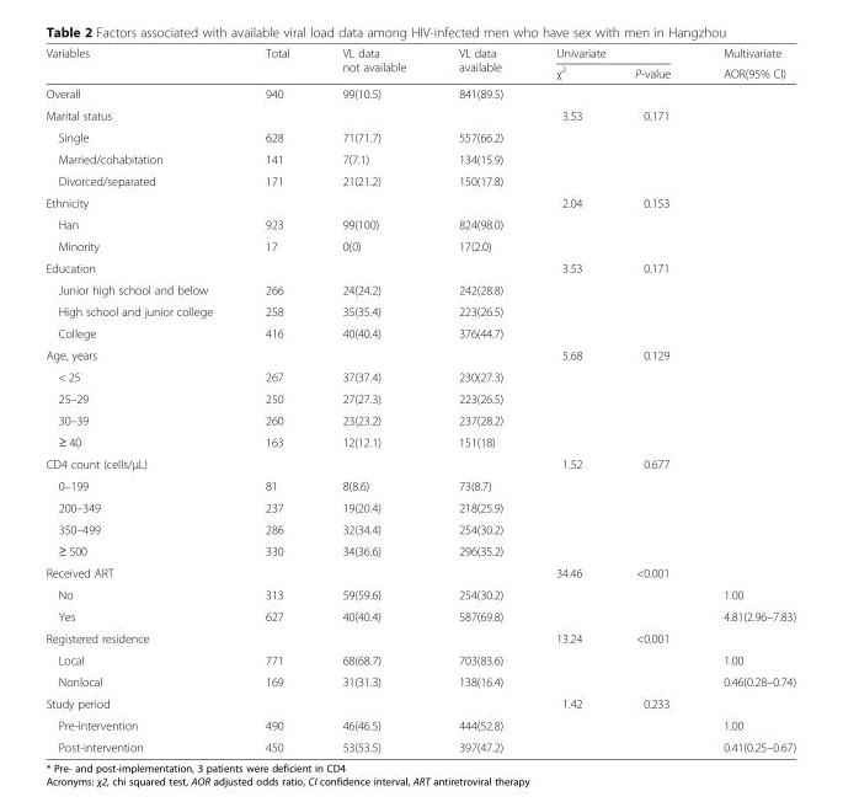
<table><thead><tr><td rowspan="2">Variables</td><td rowspan="2">Total</td><td rowspan="2">VL data not available</td><td rowspan="2">VL data available</td><td colspan="2">Univariate</td><td rowspan="2">Multivariate AOR(95% CI)</td></tr><tr><td>χ<sup>2</sup></td><td>P-value</td></tr></thead><tbody><tr><td>Overall</td><td>940</td><td>99(10.5)</td><td>841(89.5)</td><td></td><td></td><td></td></tr><tr><td>Marital status</td><td></td><td></td><td></td><td>3.53</td><td>0.171</td><td></td></tr><tr><td>Single</td><td>628</td><td>71(71.7)</td><td>557(66.2)</td><td></td><td></td><td></td></tr><tr><td>Married/cohabitation</td><td>141</td><td>7(7.1)</td><td>134(15.9)</td><td></td><td></td><td></td></tr><tr><td>Divorced/separated</td><td>171</td><td>21(21.2)</td><td>150(17.8)</td><td></td><td></td><td></td></tr><tr><td>Ethnicity</td><td></td><td></td><td></td><td>2.04</td><td>0.153</td><td></td></tr><tr><td>Han</td><td>923</td><td>99(100)</td><td>824(98.0)</td><td></td><td></td><td></td></tr><tr><td>Minority</td><td>17</td><td>0(0)</td><td>17(2.0)</td><td></td><td></td><td></td></tr><tr><td>Education</td><td></td><td></td><td></td><td>3.53</td><td>0.171</td><td></td></tr><tr><td>Junior high school and below</td><td>266</td><td>24(24.2)</td><td>242(28.8)</td><td></td><td></td><td></td></tr><tr><td>High school and junior college</td><td>258</td><td>35(35.4)</td><td>223(26.5)</td><td></td><td></td><td></td></tr><tr><td>College</td><td>416</td><td>40(40.4)</td><td>376(44.7)</td><td></td><td></td><td></td></tr><tr><td>Age, years</td><td></td><td></td><td></td><td>5.68</td><td>0.129</td><td></td></tr><tr><td>&lt; 25</td><td>267</td><td>37(37.4)</td><td>230(27.3)</td><td></td><td></td><td></td></tr><tr><td>25–29</td><td>250</td><td>27(27.3)</td><td>223(26.5)</td><td></td><td></td><td></td></tr><tr><td>30–39</td><td>260</td><td>23(23.2)</td><td>237(28.2)</td><td></td><td></td><td></td></tr><tr><td>≥ 40</td><td>163</td><td>12(12.1)</td><td>151(18)</td><td></td><td></td><td></td></tr><tr><td>CD4 count (cells/μL)</td><td></td><td></td><td></td><td>1.52</td><td>0.677</td><td></td></tr><tr><td>0–199</td><td>81</td><td>8(8.6)</td><td>73(8.7)</td><td></td><td></td><td></td></tr><tr><td>200–349</td><td>237</td><td>19(20.4)</td><td>218(25.9)</td><td></td><td></td><td></td></tr><tr><td>350–499</td><td>286</td><td>32(34.4)</td><td>254(30.2)</td><td></td><td></td><td></td></tr><tr><td>≥ 500</td><td>330</td><td>34(36.6)</td><td>296(35.2)</td><td></td><td></td><td></td></tr><tr><td>Received ART</td><td></td><td></td><td></td><td>34.46</td><td>&lt;0.001</td><td></td></tr><tr><td>No</td><td>313</td><td>59(59.6)</td><td>254(30.2)</td><td></td><td></td><td>1.00</td></tr><tr><td>Yes</td><td>627</td><td>40(40.4)</td><td>587(69.8)</td><td></td><td></td><td>4.81(2.96–7.83)</td></tr><tr><td>Registered residence</td><td></td><td></td><td></td><td>13.24</td><td>&lt;0.001</td><td></td></tr><tr><td>Local</td><td>771</td><td>68(68.7)</td><td>703(83.6)</td><td></td><td></td><td>1.00</td></tr><tr><td>Nonlocal</td><td>169</td><td>31(31.3)</td><td>138(16.4)</td><td></td><td></td><td>0.46(0.28–0.74)</td></tr><tr><td>Study period</td><td></td><td></td><td></td><td>1.42</td><td>0.233</td><td></td></tr><tr><td>Pre-intervention</td><td>490</td><td>46(46.5)</td><td>444(52.8)</td><td></td><td></td><td>1.00</td></tr><tr><td>Post-intervention</td><td>450</td><td>53(53.5)</td><td>397(47.2)</td><td></td><td></td><td>0.41(0.25–0.67)</td></tr></tbody></table>